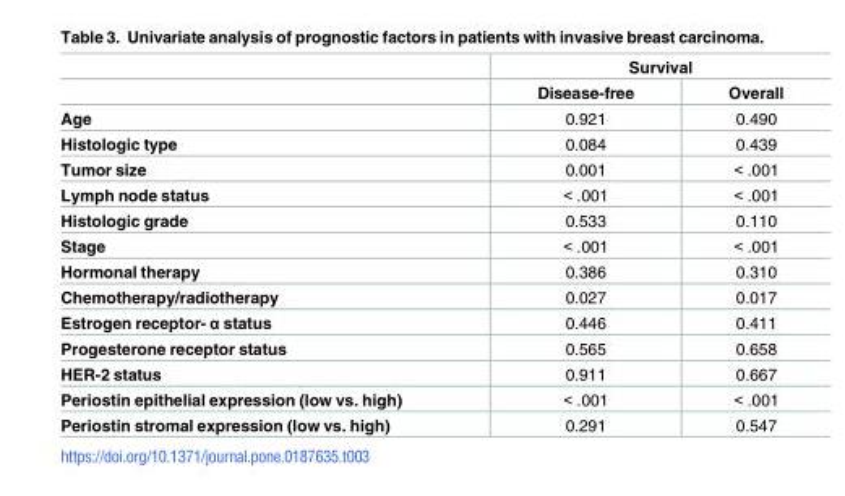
<table><thead><tr><td rowspan="2"></td><td colspan="2">Survival</td></tr><tr><td>Disease-free</td><td>Overall</td></tr></thead><tbody><tr><td>Age</td><td>0.921</td><td>0.490</td></tr><tr><td>Histologic type</td><td>0.084</td><td>0.439</td></tr><tr><td>Tumor size</td><td>0.001</td><td>&lt; .001</td></tr><tr><td>Lymph node status</td><td>&lt; .001</td><td>&lt; .001</td></tr><tr><td>Histologic grade</td><td>0.533</td><td>0.110</td></tr><tr><td>Stage</td><td>&lt; .001</td><td>&lt; .001</td></tr><tr><td>Hormonal therapy</td><td>0.386</td><td>0.310</td></tr><tr><td>Chemotherapy/radiotherapy</td><td>0.027</td><td>0.017</td></tr><tr><td>Estrogen receptor- α status</td><td>0.446</td><td>0.411</td></tr><tr><td>Progesterone receptor status</td><td>0.565</td><td>0.658</td></tr><tr><td>HER-2 status</td><td>0.911</td><td>0.667</td></tr><tr><td>Periostin epithelial expression (low vs. high)</td><td>&lt; .001</td><td>&lt; .001</td></tr><tr><td>Periostin stromal expression (low vs. high)</td><td>0.291</td><td>0.547</td></tr></tbody></table>